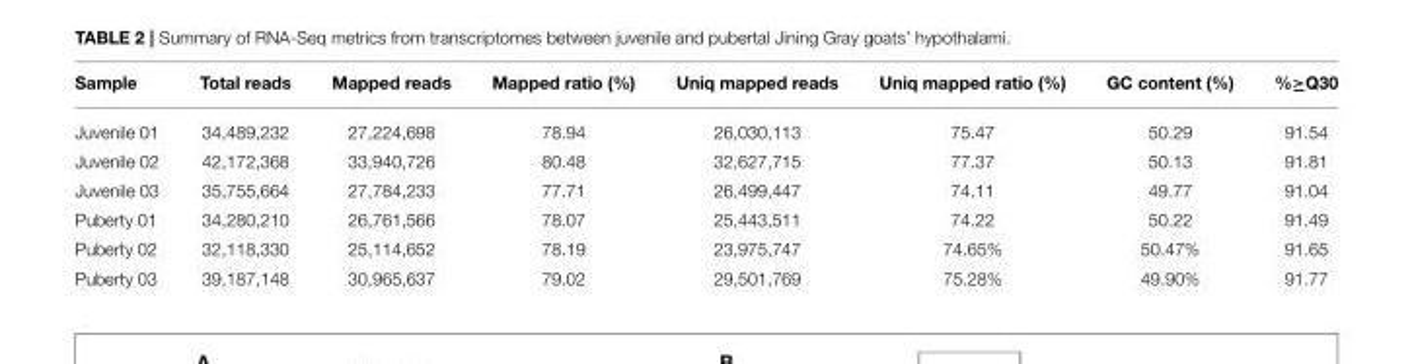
<table><thead><tr><td>Sample</td><td>Total reads</td><td>Mapped reads</td><td>Mapped ratio (%)</td><td>Uniq mapped reads</td><td>Uniq mapped ratio (%)</td><td>GC content (%)</td><td>%≥Q30</td></tr></thead><tbody><tr><td>Juvenile 01</td><td>34,489,232</td><td>27,224,698</td><td>78.94</td><td>26,030,113</td><td>75.47</td><td>50.29</td><td>91.54</td></tr><tr><td>Juvenile 02</td><td>42,172,368</td><td>33,940,726</td><td>80.48</td><td>32,627,715</td><td>77.37</td><td>50.13</td><td>91.81</td></tr><tr><td>Juvenile 03</td><td>35,755,664</td><td>27,784,233</td><td>77.71</td><td>26,499,447</td><td>74.11</td><td>49.77</td><td>91.04</td></tr><tr><td>Puberty 01</td><td>34,280,210</td><td>26,761,566</td><td>78.07</td><td>25,443,511</td><td>74.22</td><td>50.22</td><td>91.49</td></tr><tr><td>Puberty 02</td><td>32,118,330</td><td>25,114,652</td><td>78.19</td><td>23,975,747</td><td>74.65%</td><td>50.47%</td><td>91.65</td></tr><tr><td>Puberty 03</td><td>39,187,148</td><td>30,965,637</td><td>79.02</td><td>29,501,769</td><td>75.28%</td><td>49.90%</td><td>91.77</td></tr></tbody></table>